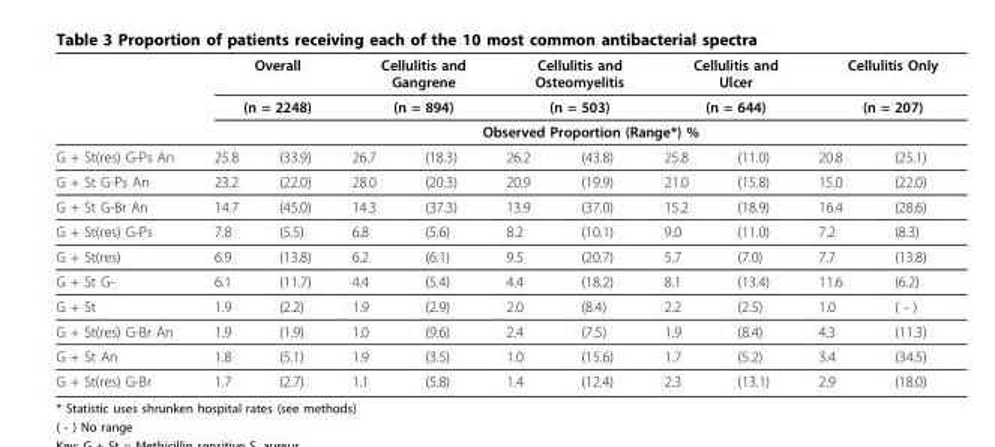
<table><thead><tr><td rowspan="4">G + St(res) G-Ps An</td><td rowspan="2" colspan="2">Overall (n = 2248)</td><td rowspan="2" colspan="2">Cellulitis and Gangrene (n = 894)</td><td rowspan="2" colspan="2">Cellulitis and Osteomyelitis (n = 503)</td><td rowspan="2" colspan="2">Cellulitis and Ulcer (n = 644)</td><td rowspan="2" colspan="2">Cellulitis Only (n = 207)</td></tr><tr></tr><tr><td colspan="10">Observed Proportion (Range*) %</td></tr><tr><td>25.8</td><td>(33.9)</td><td>26.7</td><td>(18.3)</td><td>26.2</td><td>(43.8)</td><td>25.8</td><td>(11.0)</td><td>20.8</td><td>(25.1)</td></tr></thead><tbody><tr><td>G + St G-Ps An</td><td>23.2</td><td>(22.0)</td><td>28.0</td><td>(20.3)</td><td>20.9</td><td>(19.9)</td><td>21.0</td><td>(15.8)</td><td>15.0</td><td>(22.0)</td></tr><tr><td>G + St G-Br An</td><td>14.7</td><td>(45.0)</td><td>14.3</td><td>(37.3)</td><td>13.9</td><td>(37.0)</td><td>15.2</td><td>(18.9)</td><td>16.4</td><td>(28.6)</td></tr><tr><td>G + St(res) G-Ps</td><td>7.8</td><td>(5.5)</td><td>6.8</td><td>(5.6)</td><td>8.2</td><td>(10.1)</td><td>9.0</td><td>(11.0)</td><td>7.2</td><td>(8.3)</td></tr><tr><td>G + St(res)</td><td>6.9</td><td>(13.8)</td><td>6.2</td><td>(6.1)</td><td>9.5</td><td>(20.7)</td><td>5.7</td><td>(7.0)</td><td>7.7</td><td>(13.8)</td></tr><tr><td>G + St G-</td><td>6.1</td><td>(11.7)</td><td>4.4</td><td>(5.4)</td><td>4.4</td><td>(18.2)</td><td>8.1</td><td>(13.4)</td><td>11.6</td><td>(6.2)</td></tr><tr><td>G + St</td><td>1.9</td><td>(2.2)</td><td>1.9</td><td>(2.9)</td><td>2.0</td><td>(8.4)</td><td>2.2</td><td>(2.5)</td><td>1.0</td><td>( - )</td></tr><tr><td>G + St(res) G-Br An</td><td>1.9</td><td>(1.9)</td><td>1.0</td><td>(9.6)</td><td>2.4</td><td>(7.5)</td><td>1.9</td><td>(8.4)</td><td>4.3</td><td>(11.3)</td></tr><tr><td>G + St An</td><td>1.8</td><td>(5.1)</td><td>1.9</td><td>(3.5)</td><td>1.0</td><td>(15.6)</td><td>1.7</td><td>(5.2)</td><td>3.4</td><td>(34.5)</td></tr><tr><td>G + St(res) G-Br</td><td>1.7</td><td>(2.7)</td><td>1.1</td><td>(5.8)</td><td>1.4</td><td>(12.4)</td><td>2.3</td><td>(13.1)</td><td>2.9</td><td>(18.0)</td></tr></tbody></table>